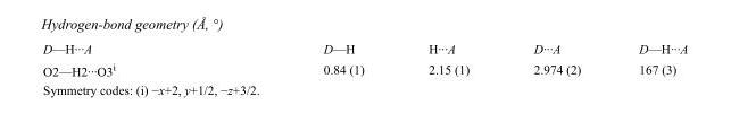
<table><tbody><tr><td>D—H···A</td><td>D—H</td><td>H···A</td><td>D···A</td><td>D—H···A</td></tr><tr><td>O2—H2···O3<sup>i</sup></td><td>0.84 (1)</td><td>2.15 (1)</td><td>2.974 (2)</td><td>167 (3)</td></tr></tbody></table>